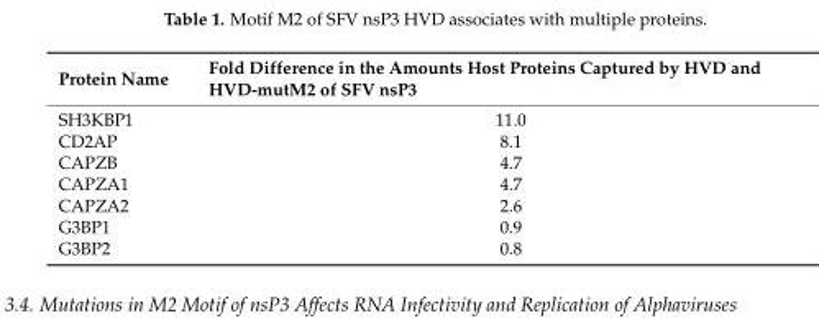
<table><thead><tr><td>Protein Name</td><td>Fold Difference in the Amounts Host Proteins Captured by HVD and HVD-mutM2 of SFV nsP3</td></tr></thead><tbody><tr><td>SH3KBP1</td><td>11.0</td></tr><tr><td>CD2AP</td><td>8.1</td></tr><tr><td>CAPZB</td><td>4.7</td></tr><tr><td>CAPZA1</td><td>4.7</td></tr><tr><td>CAPZA2</td><td>2.6</td></tr><tr><td>G3BP1</td><td>0.9</td></tr><tr><td>G3BP2</td><td>0.8</td></tr></tbody></table>